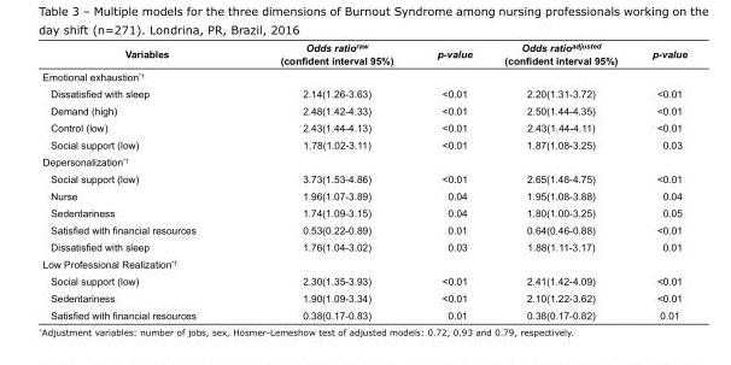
<table><tbody><tr><td>Variables</td><td>Odds ratioraw (confident interval 95%)</td><td>p-value</td><td>Odds ratioadjusted (confident interval 95%)</td><td>p-value</td></tr><tr><td colspan="5">Emotional exhaustion<sup>*†</sup></td></tr><tr><td>Dissatisfied with sleep</td><td>2.14(1.26-3.63)</td><td>&lt;0.01</td><td>2.20(1.31-3.72)</td><td>&lt;0.01</td></tr><tr><td>Demand (high)</td><td>2.48(1.42-4.33)</td><td>&lt;0.01</td><td>2.50(1.44-4.35)</td><td>&lt;0.01</td></tr><tr><td>Control (low)</td><td>2.43(1.44-4.13)</td><td>&lt;0.01</td><td>2.43(1.44-4.11)</td><td>&lt;0.01</td></tr><tr><td>Social support (low)</td><td>1.78(1.02-3.11)</td><td>&lt;0.01</td><td>1.87(1.08-3.25)</td><td>0.03</td></tr><tr><td colspan="5">Depersonalization<sup>*†</sup></td></tr><tr><td>Social support (low)</td><td>3.73(1.53-4.86)</td><td>&lt;0.01</td><td>2.65(1.48-4.75)</td><td>&lt;0.01</td></tr><tr><td>Nurse</td><td>1.96(1.07-3.89)</td><td>0.04</td><td>1.95(1.08-3.88)</td><td>0.04</td></tr><tr><td>Sedentariness</td><td>1.74(1.09-3.15)</td><td>0.04</td><td>1.80(1.00-3.25)</td><td>0.05</td></tr><tr><td>Satisfied with financial resources</td><td>0.53(0.22-0.89)</td><td>0.01</td><td>0.64(0.46-0.88)</td><td>&lt;0.01</td></tr><tr><td>Dissatisfied with sleep</td><td>1.76(1.04-3.02)</td><td>0.03</td><td>1.88(1.11-3.17)</td><td>0.01</td></tr><tr><td colspan="5">Low Professional Realization<sup>*†</sup></td></tr><tr><td>Social support (low)</td><td>2.30(1.35-3.93)</td><td>&lt;0.01</td><td>2.41(1.42-4.09)</td><td>&lt;0.01</td></tr><tr><td>Sedentariness</td><td>1.90(1.09-3.34)</td><td>&lt;0.01</td><td>2.10(1.22-3.62)</td><td>&lt;0.01</td></tr><tr><td>Satisfied with financial resources</td><td>0.38(0.17-0.83)</td><td>0.01</td><td>0.38(0.17-0.82)</td><td>0.01</td></tr></tbody></table>